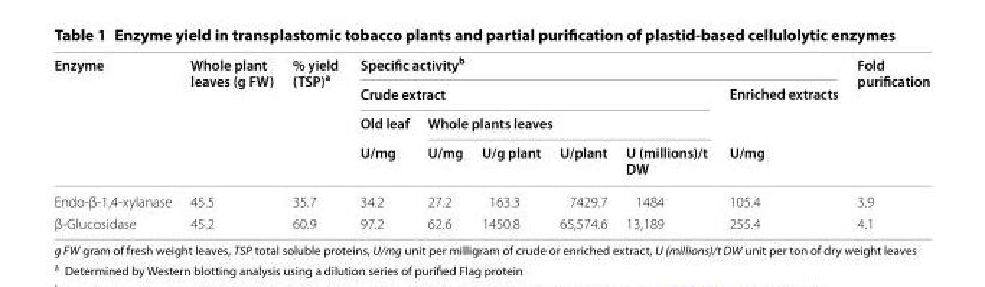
<table><thead><tr><td rowspan="4">Enzyme</td><td rowspan="4">Whole plant leaves (g FW)</td><td rowspan="4">% yield (TSP)<sup>a</sup></td><td colspan="6">Specific activity<sup>b</sup></td><td rowspan="4">Fold purification</td></tr><tr><td colspan="5">Crude extract</td><td rowspan="3">Enriched extracts U/mg</td></tr><tr><td rowspan="2">Old leaf U/mg</td><td colspan="4">Whole plants leaves</td></tr><tr><td>U/mg</td><td>U/g plant</td><td>U/plant</td><td>U (millions)/t DW</td></tr></thead><tbody><tr><td>Endo‑β‑1,4‑xylanase</td><td>45.5</td><td>35.7</td><td>34.2</td><td>27.2</td><td>163.3</td><td>7429.7</td><td>1484</td><td>105.4</td><td>3.9</td></tr><tr><td>β‑Glucosidase</td><td>45.2</td><td>60.9</td><td>97.2</td><td>62.6</td><td>1450.8</td><td>65,574.6</td><td>13,189</td><td>255.4</td><td>4.1</td></tr></tbody></table>